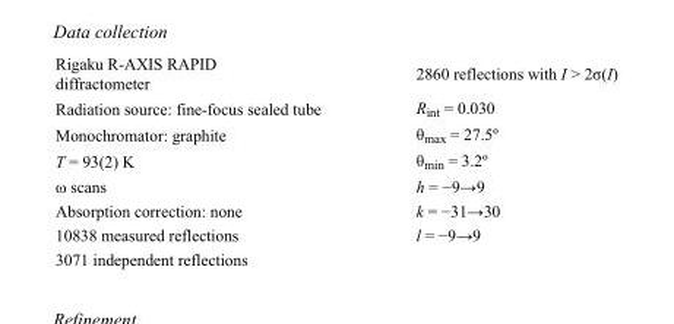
<table><tbody><tr><td>Rigaku R-AXIS RAPID diffractometer</td><td>2860 reflections with I &gt; 2σ(I)</td></tr><tr><td>Radiation source: fine-focus sealed tube</td><td>R<sub>int</sub> = 0.030</td></tr><tr><td>Monochromator: graphite</td><td>θ<sub>max</sub> = 27.5º</td></tr><tr><td>T = 93(2) K</td><td>θ<sub>min</sub> = 3.2º</td></tr><tr><td>ω scans</td><td>h = −9→9</td></tr><tr><td>Absorption correction: none</td><td>k = −31→30</td></tr><tr><td>10838 measured reflections</td><td>l = −9→9</td></tr><tr><td>3071 independent reflections</td><td></td></tr></tbody></table>